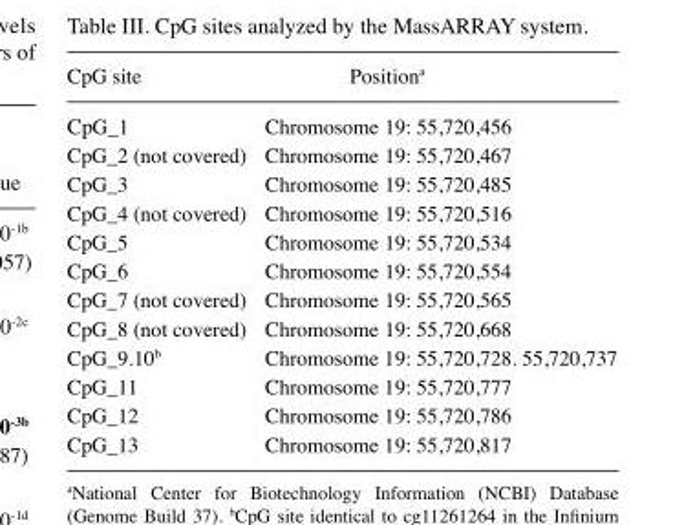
<table><thead><tr><td>CpG site</td><td>Position<sup>a</sup></td></tr></thead><tbody><tr><td>CpG_1</td><td>Chromosome 19: 55,720,456</td></tr><tr><td>CpG_2 (not covered)</td><td>Chromosome 19: 55,720,467</td></tr><tr><td>CpG_3</td><td>Chromosome 19: 55,720,485</td></tr><tr><td>CpG_4 (not covered)</td><td>Chromosome 19: 55,720,516</td></tr><tr><td>CpG_5</td><td>Chromosome 19: 55,720,534</td></tr><tr><td>CpG_6</td><td>Chromosome 19: 55,720,554</td></tr><tr><td>CpG_7 (not covered)</td><td>Chromosome 19: 55,720,565</td></tr><tr><td>CpG_8 (not covered)</td><td>Chromosome 19: 55,720,668</td></tr><tr><td>CpG_9.10<sup>b</sup></td><td>Chromosome 19: 55,720,728. 55,720,737</td></tr><tr><td>CpG_11</td><td>Chromosome 19: 55,720,777</td></tr><tr><td>CpG_12</td><td>Chromosome 19: 55,720,786</td></tr><tr><td>CpG_13</td><td>Chromosome 19: 55,720,817</td></tr></tbody></table>